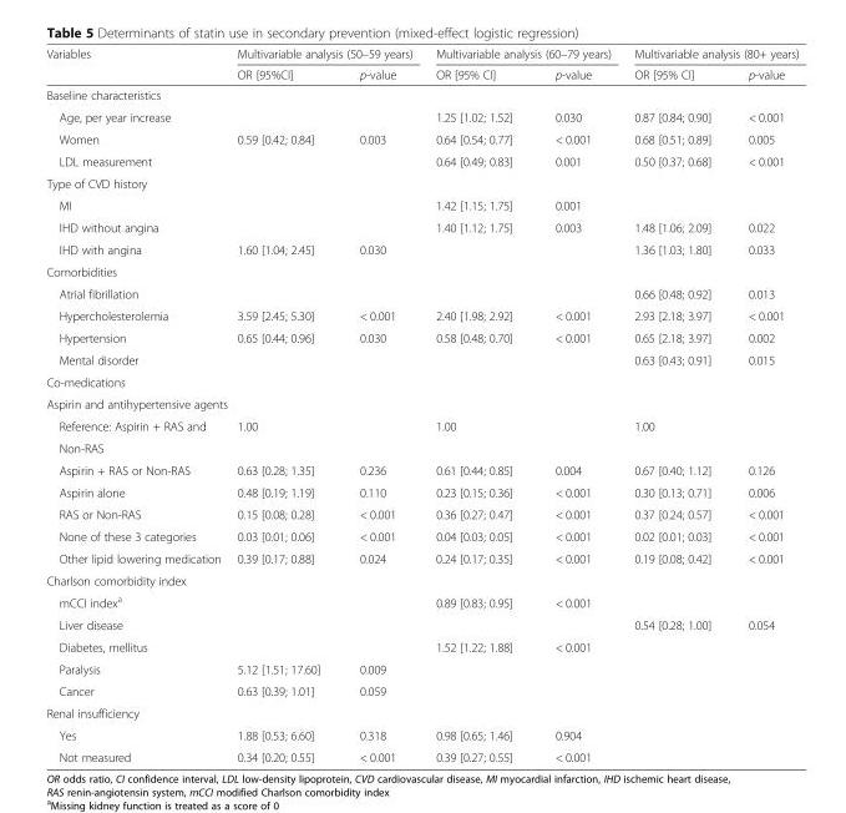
<table><thead><tr><td rowspan="2">Variables</td><td colspan="2">Multivariable analysis (50–59 years)</td><td colspan="2">Multivariable analysis (60–79 years)</td><td colspan="2">Multivariable analysis (80+ years)</td></tr><tr><td>OR [95%CI]</td><td>p-value</td><td>OR [95% CI]</td><td>p-value</td><td>OR [95% CI]</td><td>p-value</td></tr></thead><tbody><tr><td colspan="7">Baseline characteristics</td></tr><tr><td>Age, per year increase</td><td></td><td></td><td>1.25 [1.02; 1.52]</td><td>0.030</td><td>0.87 [0.84; 0.90]</td><td>&lt; 0.001</td></tr><tr><td>Women</td><td>0.59 [0.42; 0.84]</td><td>0.003</td><td>0.64 [0.54; 0.77]</td><td>&lt; 0.001</td><td>0.68 [0.51; 0.89]</td><td>0.005</td></tr><tr><td>LDL measurement</td><td></td><td></td><td>0.64 [0.49; 0.83]</td><td>0.001</td><td>0.50 [0.37; 0.68]</td><td>&lt; 0.001</td></tr><tr><td colspan="7">Type of CVD history</td></tr><tr><td>MI</td><td></td><td></td><td>1.42 [1.15; 1.75]</td><td>0.001</td><td></td><td></td></tr><tr><td>IHD without angina</td><td></td><td></td><td>1.40 [1.12; 1.75]</td><td>0.003</td><td>1.48 [1.06; 2.09]</td><td>0.022</td></tr><tr><td>IHD with angina</td><td>1.60 [1.04; 2.45]</td><td>0.030</td><td></td><td></td><td>1.36 [1.03; 1.80]</td><td>0.033</td></tr><tr><td colspan="7">Comorbidities</td></tr><tr><td>Atrial fibrillation</td><td></td><td></td><td></td><td></td><td>0.66 [0.48; 0.92]</td><td>0.013</td></tr><tr><td>Hypercholesterolemia</td><td>3.59 [2.45; 5.30]</td><td>&lt; 0.001</td><td>2.40 [1.98; 2.92]</td><td>&lt; 0.001</td><td>2.93 [2.18; 3.97]</td><td>&lt; 0.001</td></tr><tr><td>Hypertension</td><td>0.65 [0.44; 0.96]</td><td>0.030</td><td>0.58 [0.48; 0.70]</td><td>&lt; 0.001</td><td>0.65 [2.18; 3.97]</td><td>0.002</td></tr><tr><td>Mental disorder</td><td></td><td></td><td></td><td></td><td>0.63 [0.43; 0.91]</td><td>0.015</td></tr><tr><td colspan="7">Co-medications</td></tr><tr><td colspan="7">Aspirin and antihypertensive agents</td></tr><tr><td>Reference: Aspirin + RAS and</td><td>1.00</td><td></td><td>1.00</td><td></td><td>1.00</td><td></td></tr><tr><td colspan="7">Non-RAS</td></tr><tr><td>Aspirin + RAS or Non-RAS</td><td>0.63 [0.28; 1.35]</td><td>0.236</td><td>0.61 [0.44; 0.85]</td><td>0.004</td><td>0.67 [0.40; 1.12]</td><td>0.126</td></tr><tr><td>Aspirin alone</td><td>0.48 [0.19; 1.19]</td><td>0.110</td><td>0.23 [0.15; 0.36]</td><td>&lt; 0.001</td><td>0.30 [0.13; 0.71]</td><td>0.006</td></tr><tr><td>RAS or Non-RAS</td><td>0.15 [0.08; 0.28]</td><td>&lt; 0.001</td><td>0.36 [0.27; 0.47]</td><td>&lt; 0.001</td><td>0.37 [0.24; 0.57]</td><td>&lt; 0.001</td></tr><tr><td>None of these 3 categories</td><td>0.03 [0.01; 0.06]</td><td>&lt; 0.001</td><td>0.04 [0.03; 0.05]</td><td>&lt; 0.001</td><td>0.02 [0.01; 0.03]</td><td>&lt; 0.001</td></tr><tr><td>Other lipid lowering medication</td><td>0.39 [0.17; 0.88]</td><td>0.024</td><td>0.24 [0.17; 0.35]</td><td>&lt; 0.001</td><td>0.19 [0.08; 0.42]</td><td>&lt; 0.001</td></tr><tr><td colspan="7">Charlson comorbidity index</td></tr><tr><td>mCCI index<sup>a</sup></td><td></td><td></td><td>0.89 [0.83; 0.95]</td><td>&lt; 0.001</td><td></td><td></td></tr><tr><td>Liver disease</td><td></td><td></td><td></td><td></td><td>0.54 [0.28; 1.00]</td><td>0.054</td></tr><tr><td>Diabetes, mellitus</td><td></td><td></td><td>1.52 [1.22; 1.88]</td><td>&lt; 0.001</td><td></td><td></td></tr><tr><td>Paralysis</td><td>5.12 [1.51; 17.60]</td><td>0.009</td><td></td><td></td><td></td><td></td></tr><tr><td>Cancer</td><td>0.63 [0.39; 1.01]</td><td>0.059</td><td></td><td></td><td></td><td></td></tr><tr><td colspan="7">Renal insufficiency</td></tr><tr><td>Yes</td><td>1.88 [0.53; 6.60]</td><td>0.318</td><td>0.98 [0.65; 1.46]</td><td>0.904</td><td></td><td></td></tr><tr><td>Not measured</td><td>0.34 [0.20; 0.55]</td><td>&lt; 0.001</td><td>0.39 [0.27; 0.55]</td><td>&lt; 0.001</td><td></td><td></td></tr></tbody></table>